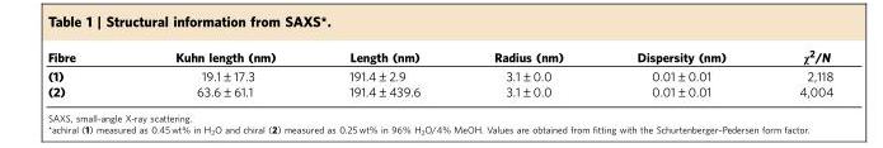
<table><thead><tr><td>Fibre</td><td>Kuhn length (nm)</td><td>Length (nm)</td><td>Radius (nm)</td><td>Dispersity (nm)</td><td>χ<sup>2</sup>/N</td></tr></thead><tbody><tr><td>(1)</td><td>19.1±17.3</td><td>191.4±2.9</td><td>3.1±0.0</td><td>0.01±0.01</td><td>2,118</td></tr><tr><td>(2)</td><td>63.6±61.1</td><td>191.4±439.6</td><td>3.1±0.0</td><td>0.01±0.01</td><td>4,004</td></tr></tbody></table>